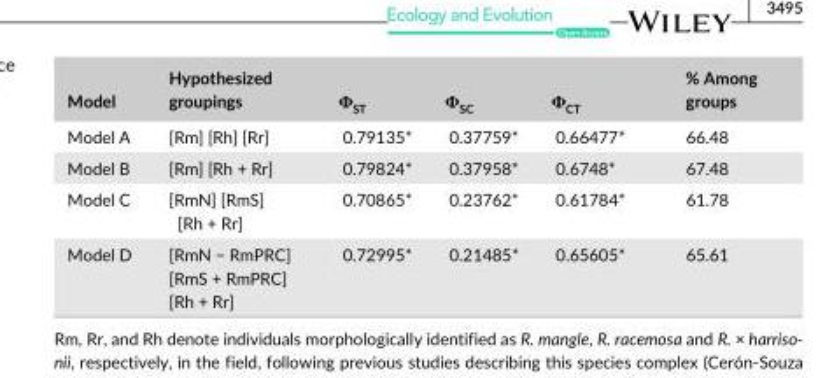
<table><thead><tr><td>Model</td><td>Hypothesized groupings</td><td>Φ<sub>ST</sub></td><td>Φ<sub>SC</sub></td><td>Φ<sub>CT</sub></td><td>% Among groups</td></tr></thead><tbody><tr><td>Model A</td><td>[Rm] [Rh] [Rr]</td><td>0.79135*</td><td>0.37759*</td><td>0.66477*</td><td>66.48</td></tr><tr><td>Model B</td><td>[Rm] [Rh + Rr]</td><td>0.79824*</td><td>0.37958*</td><td>0.6748*</td><td>67.48</td></tr><tr><td>Model C</td><td>[RmN] [RmS] [Rh + Rr]</td><td>0.70865*</td><td>0.23762*</td><td>0.61784*</td><td>61.78</td></tr><tr><td>Model D</td><td>[RmN − RmPRC] [RmS + RmPRC] [Rh + Rr]</td><td>0.72995*</td><td>0.21485*</td><td>0.65605*</td><td>65.61</td></tr></tbody></table>